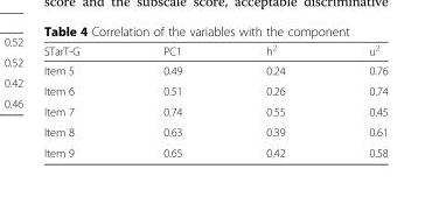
<table><thead><tr><td>STarT-G</td><td>PC1</td><td>h<sup>2</sup></td><td>u<sup>2</sup></td></tr></thead><tbody><tr><td>Item 5</td><td>0.49</td><td>0.24</td><td>0.76</td></tr><tr><td>Item 6</td><td>0.51</td><td>0.26</td><td>0.74</td></tr><tr><td>Item 7</td><td>0.74</td><td>0.55</td><td>0.45</td></tr><tr><td>Item 8</td><td>0.63</td><td>0.39</td><td>0.61</td></tr><tr><td>Item 9</td><td>0.65</td><td>0.42</td><td>0.58</td></tr></tbody></table>